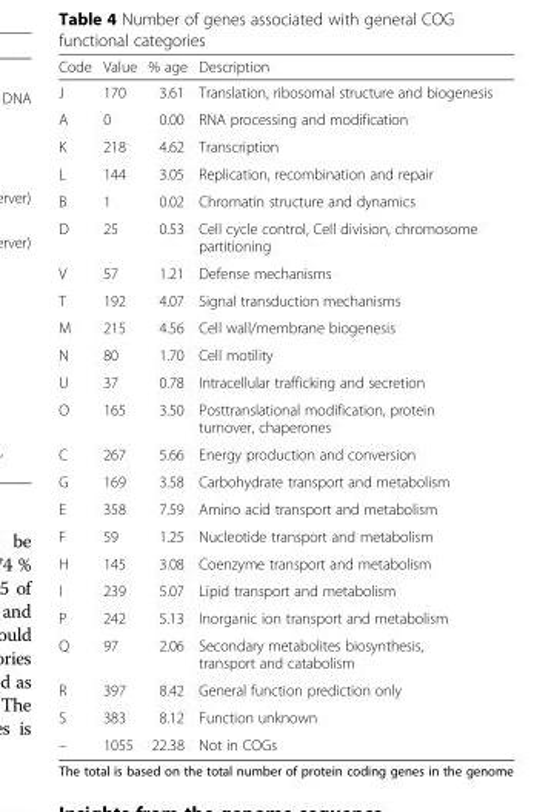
<table><thead><tr><td>Code</td><td>Value</td><td>% age</td><td>Description</td></tr></thead><tbody><tr><td>J</td><td>170</td><td>3.61</td><td>Translation, ribosomal structure and biogenesis</td></tr><tr><td>A</td><td>0</td><td>0.00</td><td>RNA processing and modification</td></tr><tr><td>K</td><td>218</td><td>4.62</td><td>Transcription</td></tr><tr><td>L</td><td>144</td><td>3.05</td><td>Replication, recombination and repair</td></tr><tr><td>B</td><td>1</td><td>0.02</td><td>Chromatin structure and dynamics</td></tr><tr><td>D</td><td>25</td><td>0.53</td><td>Cell cycle control, Cell division, chromosome partitioning</td></tr><tr><td>V</td><td>57</td><td>1.21</td><td>Defense mechanisms</td></tr><tr><td>T</td><td>192</td><td>4.07</td><td>Signal transduction mechanisms</td></tr><tr><td>M</td><td>215</td><td>4.56</td><td>Cell wall/membrane biogenesis</td></tr><tr><td>N</td><td>80</td><td>1.70</td><td>Cell motility</td></tr><tr><td>U</td><td>37</td><td>0.78</td><td>Intracellular trafficking and secretion</td></tr><tr><td>O</td><td>165</td><td>3.50</td><td>Posttranslational modification, protein turnover, chaperones</td></tr><tr><td>C</td><td>267</td><td>5.66</td><td>Energy production and conversion</td></tr><tr><td>G</td><td>169</td><td>3.58</td><td>Carbohydrate transport and metabolism</td></tr><tr><td>E</td><td>358</td><td>7.59</td><td>Amino acid transport and metabolism</td></tr><tr><td>F</td><td>59</td><td>1.25</td><td>Nucleotide transport and metabolism</td></tr><tr><td>H</td><td>145</td><td>3.08</td><td>Coenzyme transport and metabolism</td></tr><tr><td>I</td><td>239</td><td>5.07</td><td>Lipid transport and metabolism</td></tr><tr><td>P</td><td>242</td><td>5.13</td><td>Inorganic ion transport and metabolism</td></tr><tr><td>Q</td><td>97</td><td>2.06</td><td>Secondary metabolites biosynthesis, transport and catabolism</td></tr><tr><td>R</td><td>397</td><td>8.42</td><td>General function prediction only</td></tr><tr><td>S</td><td>383</td><td>8.12</td><td>Function unknown</td></tr><tr><td>–</td><td>1055</td><td>22.38</td><td>Not in COGs</td></tr></tbody></table>